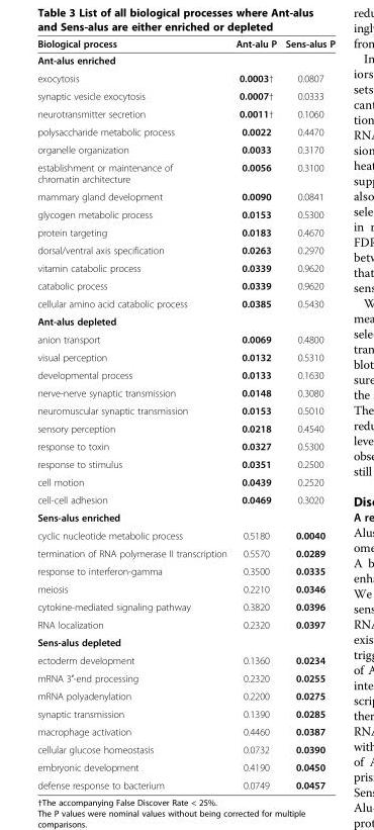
<table><thead><tr><td>Biological process</td><td>Ant-alu P</td><td>Sens-alus P</td></tr></thead><tbody><tr><td colspan="3">Ant-alus enriched</td></tr><tr><td>exocytosis</td><td>0.0003†</td><td>0.0807</td></tr><tr><td>synaptic vesicle exocytosis</td><td>0.0007†</td><td>0.0333</td></tr><tr><td>neurotransmitter secretion</td><td>0.0011†</td><td>0.1060</td></tr><tr><td>polysaccharide metabolic process</td><td>0.0022</td><td>0.4470</td></tr><tr><td>organelle organization</td><td>0.0033</td><td>0.3170</td></tr><tr><td>establishment or maintenance of chromatin architecture</td><td>0.0056</td><td>0.3100</td></tr><tr><td>mammary gland development</td><td>0.0090</td><td>0.0841</td></tr><tr><td>glycogen metabolic process</td><td>0.0153</td><td>0.5300</td></tr><tr><td>protein targeting</td><td>0.0183</td><td>0.4670</td></tr><tr><td>dorsal/ventral axis specification</td><td>0.0263</td><td>0.2970</td></tr><tr><td>vitamin catabolic process</td><td>0.0339</td><td>0.9620</td></tr><tr><td>catabolic process</td><td>0.0339</td><td>0.9620</td></tr><tr><td>cellular amino acid catabolic process</td><td>0.0385</td><td>0.5430</td></tr><tr><td colspan="3">Ant-alus depleted</td></tr><tr><td>anion transport</td><td>0.0069</td><td>0.4800</td></tr><tr><td>visual perception</td><td>0.0132</td><td>0.5310</td></tr><tr><td>developmental process</td><td>0.0133</td><td>0.1630</td></tr><tr><td>nerve-nerve synaptic transmission</td><td>0.0148</td><td>0.3080</td></tr><tr><td>neuromuscular synaptic transmission</td><td>0.0153</td><td>0.5010</td></tr><tr><td>sensory perception</td><td>0.0218</td><td>0.4540</td></tr><tr><td>response to toxin</td><td>0.0327</td><td>0.5300</td></tr><tr><td>response to stimulus</td><td>0.0351</td><td>0.2500</td></tr><tr><td>cell motion</td><td>0.0439</td><td>0.2520</td></tr><tr><td>cell-cell adhesion</td><td>0.0469</td><td>0.3020</td></tr><tr><td colspan="3">Sens-alus enriched</td></tr><tr><td>cyclic nucleotide metabolic process</td><td>0.5180</td><td>0.0040</td></tr><tr><td>termination of RNA polymerase II transcription</td><td>0.5570</td><td>0.0289</td></tr><tr><td>response to interferon-gamma</td><td>0.3500</td><td>0.0335</td></tr><tr><td>meiosis</td><td>0.2210</td><td>0.0346</td></tr><tr><td>cytokine-mediated signaling pathway</td><td>0.3820</td><td>0.0396</td></tr><tr><td>RNA localization</td><td>0.2320</td><td>0.0397</td></tr><tr><td colspan="3">Sens-alus depleted</td></tr><tr><td>ectoderm development</td><td>0.1360</td><td>0.0234</td></tr><tr><td>mRNA 3′-end processing</td><td>0.2320</td><td>0.0255</td></tr><tr><td>mRNA polyadenylation</td><td>0.2200</td><td>0.0275</td></tr><tr><td>synaptic transmission</td><td>0.1390</td><td>0.0285</td></tr><tr><td>macrophage activation</td><td>0.4460</td><td>0.0387</td></tr><tr><td>cellular glucose homeostasis</td><td>0.0732</td><td>0.0390</td></tr><tr><td>embryonic development</td><td>0.4190</td><td>0.0450</td></tr><tr><td>defense response to bacterium</td><td>0.0749</td><td>0.0457</td></tr></tbody></table>